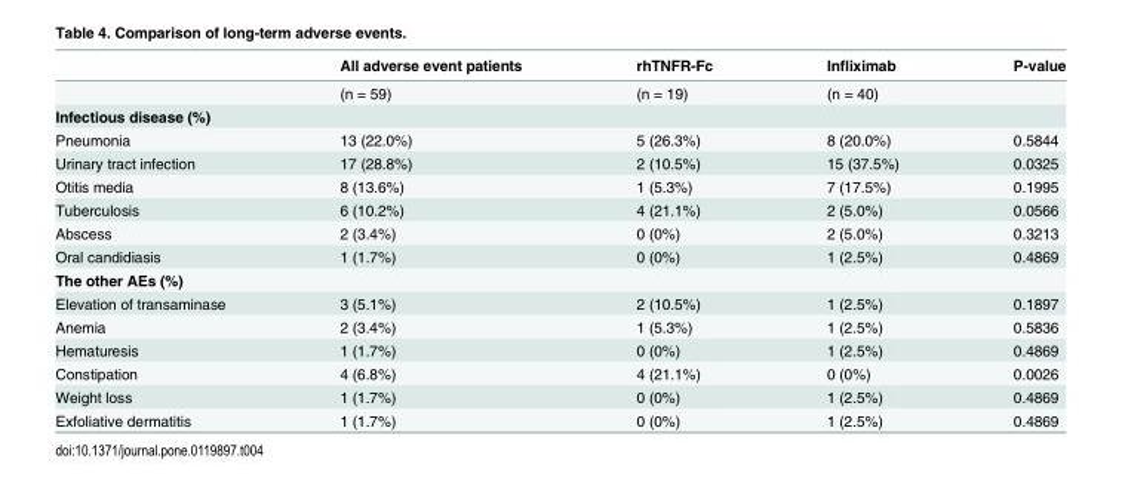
<table><thead><tr><td></td><td>All adverse event patients</td><td>rhTNFR-Fc</td><td>Infliximab</td><td>P-value</td></tr></thead><tbody><tr><td></td><td>(n = 59)</td><td>(n = 19)</td><td>(n = 40)</td><td></td></tr><tr><td colspan="5">Infectious disease (%)</td></tr><tr><td>Pneumonia</td><td>13 (22.0%)</td><td>5 (26.3%)</td><td>8 (20.0%)</td><td>0.5844</td></tr><tr><td>Urinary tract infection</td><td>17 (28.8%)</td><td>2 (10.5%)</td><td>15 (37.5%)</td><td>0.0325</td></tr><tr><td>Otitis media</td><td>8 (13.6%)</td><td>1 (5.3%)</td><td>7 (17.5%)</td><td>0.1995</td></tr><tr><td>Tuberculosis</td><td>6 (10.2%)</td><td>4 (21.1%)</td><td>2 (5.0%)</td><td>0.0566</td></tr><tr><td>Abscess</td><td>2 (3.4%)</td><td>0 (0%)</td><td>2 (5.0%)</td><td>0.3213</td></tr><tr><td>Oral candidiasis</td><td>1 (1.7%)</td><td>0 (0%)</td><td>1 (2.5%)</td><td>0.4869</td></tr><tr><td colspan="5">The other AEs (%)</td></tr><tr><td>Elevation of transaminase</td><td>3 (5.1%)</td><td>2 (10.5%)</td><td>1 (2.5%)</td><td>0.1897</td></tr><tr><td>Anemia</td><td>2 (3.4%)</td><td>1 (5.3%)</td><td>1 (2.5%)</td><td>0.5836</td></tr><tr><td>Hematuresis</td><td>1 (1.7%)</td><td>0 (0%)</td><td>1 (2.5%)</td><td>0.4869</td></tr><tr><td>Constipation</td><td>4 (6.8%)</td><td>4 (21.1%)</td><td>0 (0%)</td><td>0.0026</td></tr><tr><td>Weight loss</td><td>1 (1.7%)</td><td>0 (0%)</td><td>1 (2.5%)</td><td>0.4869</td></tr><tr><td>Exfoliative dermatitis</td><td>1 (1.7%)</td><td>0 (0%)</td><td>1 (2.5%)</td><td>0.4869</td></tr></tbody></table>